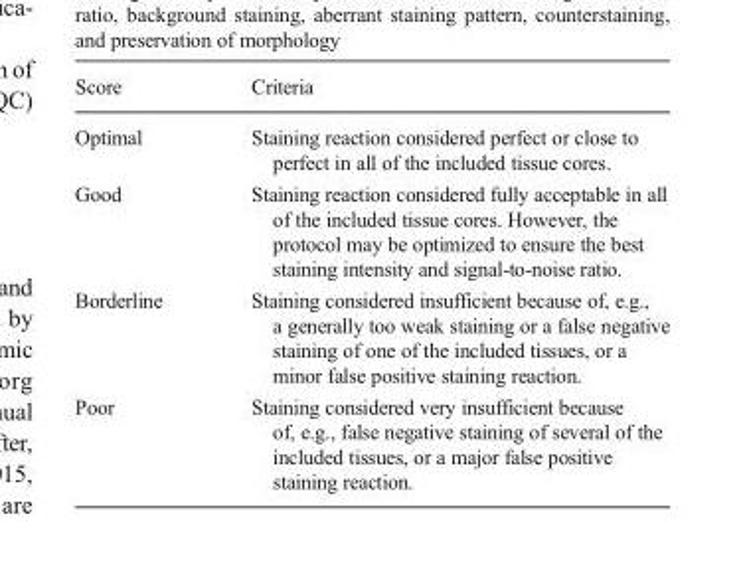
<table><thead><tr><td>Score</td><td>Criteria</td></tr></thead><tbody><tr><td>Optimal</td><td>Staining reaction considered perfect or close to perfect in all of the included tissue cores.</td></tr><tr><td>Good</td><td>Staining reaction considered fully acceptable in all of the included tissue cores. However, the protocol may be optimized to ensure the best staining intensity and signal-to-noise ratio.</td></tr><tr><td>Borderline</td><td>Staining considered insufficient because of, e.g., a generally too weak staining or a false negative staining of one of the included tissues, or a minor false positive staining reaction.</td></tr><tr><td>Poor</td><td>Staining considered very insufficient because of, e.g., false negative staining of several of the included tissues, or a major false positive staining reaction.</td></tr></tbody></table>